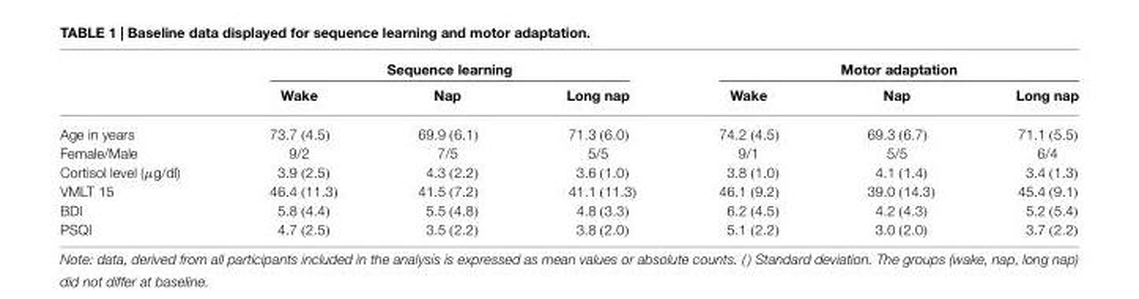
<table><thead><tr><td rowspan="2"></td><td colspan="3">Sequence learning</td><td colspan="3">Motor adaptation</td></tr><tr><td>Wake</td><td>Nap</td><td>Long nap</td><td>Wake</td><td>Nap</td><td>Long nap</td></tr></thead><tbody><tr><td>Age in years</td><td>73.7 (4.5)</td><td>69.9 (6.1)</td><td>71.3 (6.0)</td><td>74.2 (4.5)</td><td>69.3 (6.7)</td><td>71.1 (5.5)</td></tr><tr><td>Female/Male</td><td>9/2</td><td>7/5</td><td>5/5</td><td>9/1</td><td>5/5</td><td>6/4</td></tr><tr><td>Cortisol level (µg/dl)</td><td>3.9 (2.5)</td><td>4.3 (2.2)</td><td>3.6 (1.0)</td><td>3.8 (1.0)</td><td>4.1 (1.4)</td><td>3.4 (1.3)</td></tr><tr><td>VMLT 15</td><td>46.4 (11.3)</td><td>41.5 (7.2)</td><td>41.1 (11.3)</td><td>46.1 (9.2)</td><td>39.0 (14.3)</td><td>45.4 (9.1)</td></tr><tr><td>BDI</td><td>5.8 (4.4)</td><td>5.5 (4.8)</td><td>4.8 (3.3)</td><td>6.2 (4.5)</td><td>4.2 (4.3)</td><td>5.2 (5.4)</td></tr><tr><td>PSQI</td><td>4.7 (2.5)</td><td>3.5 (2.2)</td><td>3.8 (2.0)</td><td>5.1 (2.2)</td><td>3.0 (2.0)</td><td>3.7 (2.2)</td></tr></tbody></table>